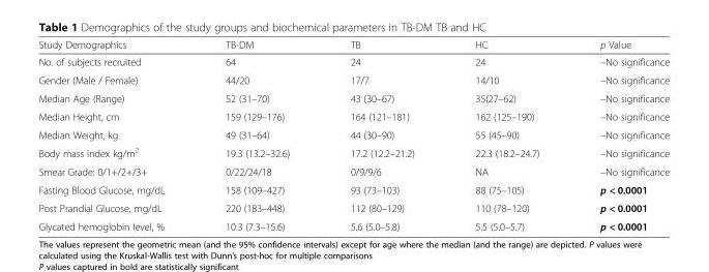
<table><thead><tr><td>Study Demographics</td><td>TB-DM</td><td>TB</td><td>HC</td><td>p Value</td></tr></thead><tbody><tr><td>No. of subjects recruited</td><td>64</td><td>24</td><td>24</td><td>–No significance</td></tr><tr><td>Gender (Male / Female)</td><td>44/20</td><td>17/7</td><td>14/10</td><td>–No significance</td></tr><tr><td>Median Age (Range)</td><td>52 (31–70)</td><td>43 (30–67)</td><td>35(27–62)</td><td>–No significance</td></tr><tr><td>Median Height, cm</td><td>159 (129–176)</td><td>164 (121–181)</td><td>162 (125–190)</td><td>–No significance</td></tr><tr><td>Median Weight, kg</td><td>49 (31–64)</td><td>44 (30–90)</td><td>55 (45–90)</td><td>–No significance</td></tr><tr><td>Body mass index kg/m<sup>2</sup></td><td>19.3 (13.2–32.6)</td><td>17.2 (12.2–21.2)</td><td>22.3 (18.2–24.7)</td><td>–No significance</td></tr><tr><td>Smear Grade: 0/1+/2+/3+</td><td>0/22/24/18</td><td>0/9/9/6</td><td>NA</td><td>–No significance</td></tr><tr><td>Fasting Blood Glucose, mg/dL</td><td>158 (109–427)</td><td>93 (73–103)</td><td>88 (75–105)</td><td>p &lt; 0.0001</td></tr><tr><td>Post Prandial Glucose, mg/dL</td><td>220 (183–448)</td><td>112 (80–129)</td><td>110 (78–120)</td><td>p &lt; 0.0001</td></tr><tr><td>Glycated hemoglobin level, %</td><td>10.3 (7.3–15.6)</td><td>5.6 (5.0–5.8)</td><td>5.5 (5.0–5.7)</td><td>p &lt; 0.0001</td></tr></tbody></table>